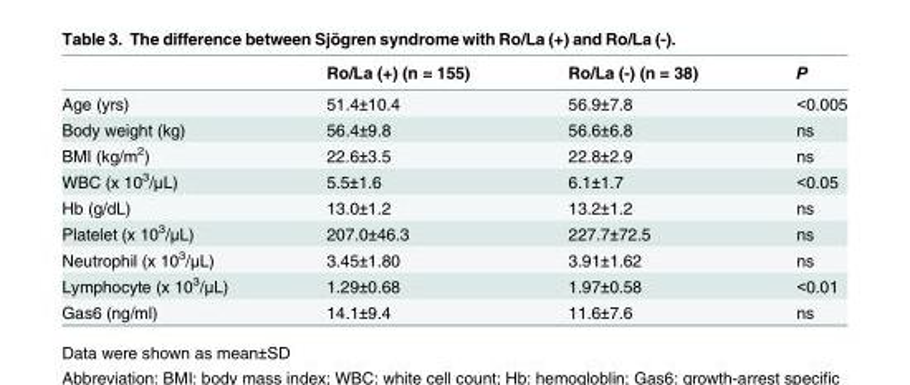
<table><thead><tr><td></td><td>Ro/La (+) (n = 155)</td><td>Ro/La (-) (n = 38)</td><td>P</td></tr></thead><tbody><tr><td>Age (yrs)</td><td>51.4±10.4</td><td>56.9±7.8</td><td>&lt;0.005</td></tr><tr><td>Body weight (kg)</td><td>56.4±9.8</td><td>56.6±6.8</td><td>ns</td></tr><tr><td>BMI (kg/m<sup>2</sup>)</td><td>22.6±3.5</td><td>22.8±2.9</td><td>ns</td></tr><tr><td>WBC (x 10<sup>3</sup>/μL)</td><td>5.5±1.6</td><td>6.1±1.7</td><td>&lt;0.05</td></tr><tr><td>Hb (g/dL)</td><td>13.0±1.2</td><td>13.2±1.2</td><td>ns</td></tr><tr><td>Platelet (x 10<sup>3</sup>/μL)</td><td>207.0±46.3</td><td>227.7±72.5</td><td>ns</td></tr><tr><td>Neutrophil (x 10<sup>3</sup>/μL)</td><td>3.45±1.80</td><td>3.91±1.62</td><td>ns</td></tr><tr><td>Lymphocyte (x 10<sup>3</sup>/μL)</td><td>1.29±0.68</td><td>1.97±0.58</td><td>&lt;0.01</td></tr><tr><td>Gas6 (ng/ml)</td><td>14.1±9.4</td><td>11.6±7.6</td><td>ns</td></tr></tbody></table>